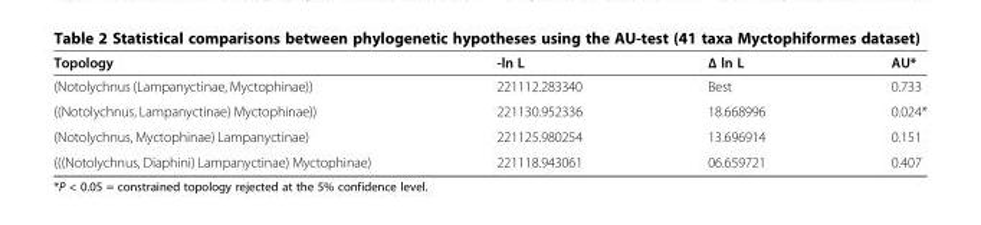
<table><thead><tr><td>Topology</td><td>-ln L</td><td>Δ ln L</td><td>AU*</td></tr></thead><tbody><tr><td>(Notolychnus (Lampanyctinae, Myctophinae))</td><td>221112.283340</td><td>Best</td><td>0.733</td></tr><tr><td>((Notolychnus, Lampanyctinae) Myctophinae))</td><td>221130.952336</td><td>18.668996</td><td>0.024*</td></tr><tr><td>(Notolychnus, Myctophinae) Lampanyctinae)</td><td>221125.980254</td><td>13.696914</td><td>0.151</td></tr><tr><td>(((Notolychnus, Diaphini) Lampanyctinae) Myctophinae)</td><td>221118.943061</td><td>06.659721</td><td>0.407</td></tr></tbody></table>